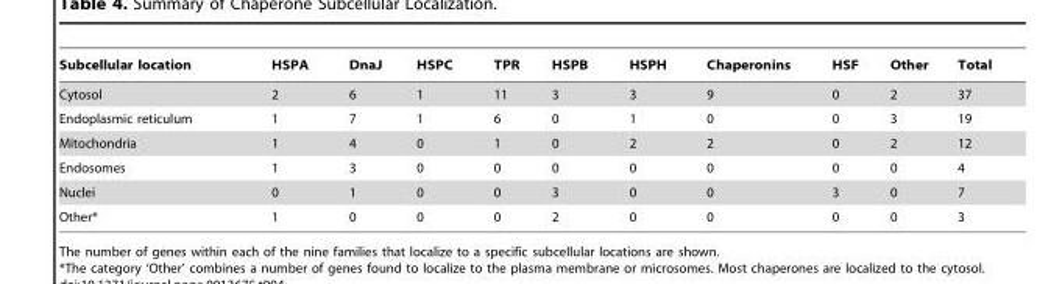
<table><thead><tr><td>Subcellular location</td><td>HSPA</td><td>DnaJ</td><td>HSPC</td><td>TPR</td><td>HSPB</td><td>HSPH</td><td>Chaperonins</td><td>HSF</td><td>Other</td><td>Total</td></tr></thead><tbody><tr><td>Cytosol</td><td>2</td><td>6</td><td>1</td><td>11</td><td>3</td><td>3</td><td>9</td><td>0</td><td>2</td><td>37</td></tr><tr><td>Endoplasmic reticulum</td><td>1</td><td>7</td><td>1</td><td>6</td><td>0</td><td>1</td><td>0</td><td>0</td><td>3</td><td>19</td></tr><tr><td>Mitochondria</td><td>1</td><td>4</td><td>0</td><td>1</td><td>0</td><td>2</td><td>2</td><td>0</td><td>2</td><td>12</td></tr><tr><td>Endosomes</td><td>1</td><td>3</td><td>0</td><td>0</td><td>0</td><td>0</td><td>0</td><td>0</td><td>0</td><td>4</td></tr><tr><td>Nuclei</td><td>0</td><td>1</td><td>0</td><td>0</td><td>3</td><td>0</td><td>0</td><td>3</td><td>0</td><td>7</td></tr><tr><td>Other*</td><td>1</td><td>0</td><td>0</td><td>0</td><td>2</td><td>0</td><td>0</td><td>0</td><td>0</td><td>3</td></tr></tbody></table>